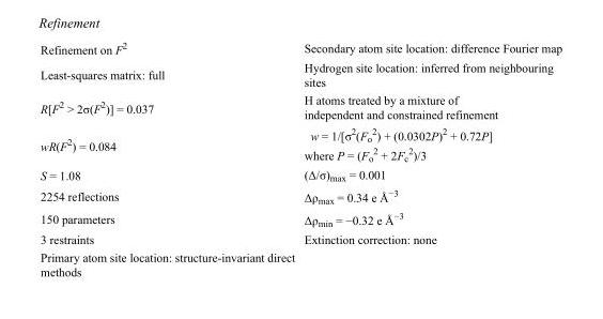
<table><tbody><tr><td>Refinement on F<sup>2</sup></td><td>Secondary atom site location: difference Fourier map</td></tr><tr><td>Least-squares matrix: full</td><td>Hydrogen site location: inferred from neighbouring sites</td></tr><tr><td>R[F<sup>2</sup> &gt; 2σ(F<sup>2</sup>)] = 0.037</td><td>H atoms treated by a mixture of independent and constrained refinement</td></tr><tr><td>wR(F<sup>2</sup>) = 0.084</td><td>w = 1/[σ<sup>2</sup>(F<sub>o</sub> <sup>2</sup>) + (0.0302P)<sup>2</sup> + 0.72P] where P = (F<sub>o</sub> <sup>2</sup> + 2F<sub>c</sub> <sup>2</sup>)/3</td></tr><tr><td>S = 1.08</td><td>(Δ/σ)<sub>max</sub> = 0.001</td></tr><tr><td>2254 reflections</td><td>Δρ<sub>max</sub> = 0.34 e Å<sup>−3</sup></td></tr><tr><td>150 parameters</td><td>Δρ<sub>min</sub> = −0.32 e Å<sup>−3</sup></td></tr><tr><td>3 restraints</td><td>Extinction correction: none</td></tr><tr><td>Primary atom site location: structure-invariant direct methods</td><td></td></tr></tbody></table>